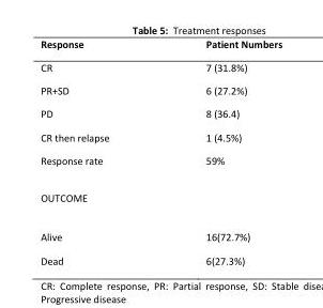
<table><thead><tr><td>Response</td><td>Patient Numbers</td></tr></thead><tbody><tr><td>CR</td><td>7 (31.8%)</td></tr><tr><td>PR+SD</td><td>6 (27.2%)</td></tr><tr><td>PD</td><td>8 (36.4)</td></tr><tr><td>CR then relapse</td><td>1 (4.5%)</td></tr><tr><td>Response rate</td><td>59%</td></tr><tr><td colspan="2">OUTCOME</td></tr><tr><td>Alive</td><td>16(72.7%)</td></tr><tr><td>Dead</td><td>6(27.3%)</td></tr></tbody></table>